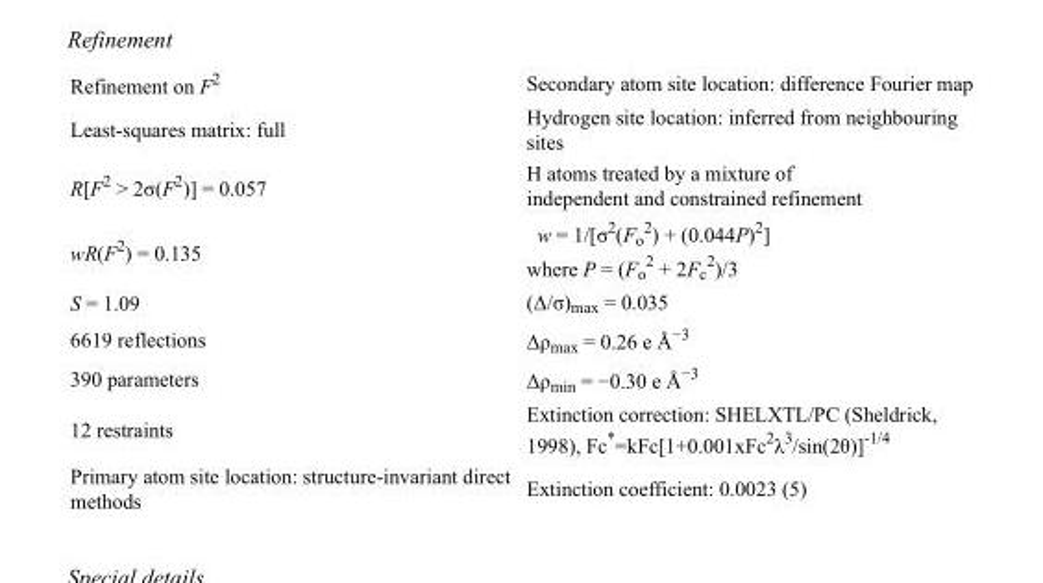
<table><tbody><tr><td>Refinement on F<sup>2</sup></td><td>Secondary atom site location: difference Fourier map</td></tr><tr><td>Least-squares matrix: full</td><td>Hydrogen site location: inferred from neighbouring sites</td></tr><tr><td>R[F<sup>2</sup> &gt; 2σ(F<sup>2</sup>)] = 0.057</td><td>H atoms treated by a mixture of independent and constrained refinement</td></tr><tr><td>wR(F<sup>2</sup>) = 0.135</td><td>w = 1/[σ<sup>2</sup>(F<sub>o</sub> <sup>2</sup>) + (0.044P)<sup>2</sup>] where P = (F<sub>o</sub> <sup>2</sup> + 2F<sub>c</sub> <sup>2</sup>)/3</td></tr><tr><td>S = 1.09</td><td>(Δ/σ)<sub>max</sub> = 0.035</td></tr><tr><td>6619 reflections</td><td>Δρ<sub>max</sub> = 0.26 e Å<sup>−3</sup></td></tr><tr><td>390 parameters</td><td>Δρ<sub>min</sub> = −0.30 e Å<sup>−3</sup></td></tr><tr><td>12 restraints</td><td>Extinction correction: SHELXTL/PC (Sheldrick, 1998), Fc*=kFc[1+0.001xFc<sup>2</sup>λ<sup>3</sup>/sin(2θ)]<sup>-1/4</sup></td></tr><tr><td>Primary atom site location: structure-invariant direct methods</td><td>Extinction coefficient: 0.0023 (5)</td></tr></tbody></table>